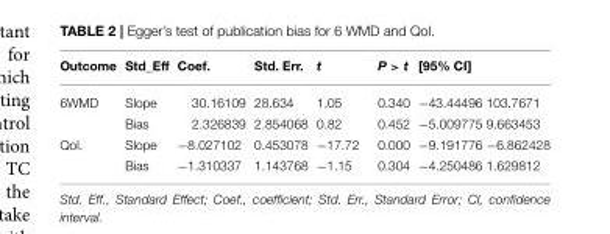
<table><thead><tr><td>Outcome</td><td>Std_Eff</td><td>Coef.</td><td>Std. Err.</td><td>t</td><td>P &gt; t</td><td>[95% CI]</td></tr></thead><tbody><tr><td rowspan="2">6WMD</td><td>Slope</td><td>30.16109</td><td>28.634</td><td>1.05</td><td>0.340</td><td>−43.44496 103.7671</td></tr><tr><td>Bias</td><td>2.326839</td><td>2.854068</td><td>0.82</td><td>0.452</td><td>−5.009775 9.663453</td></tr><tr><td rowspan="2">Qol.</td><td>Slope</td><td>−8.027102</td><td>0.453078</td><td>−17.72</td><td>0.000</td><td>−9.191776 −6.862428</td></tr><tr><td>Bias</td><td>−1.310337</td><td>1.143768</td><td>−1.15</td><td>0.304</td><td>−4.250486 1.629812</td></tr></tbody></table>